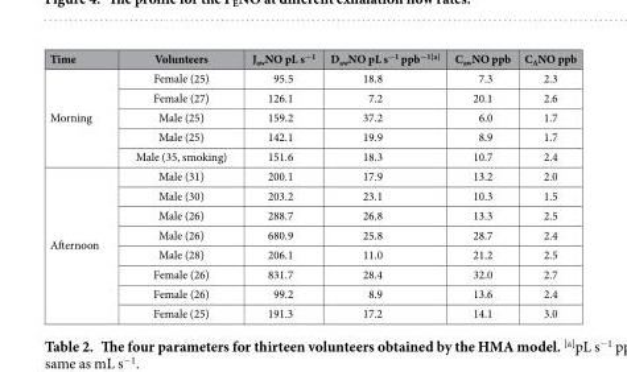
<table><thead><tr><td>Time</td><td>Volunteers</td><td>J<sub>aw</sub>NO pL s<sup>−1</sup></td><td>D<sub>aw</sub>NO pL s<sup>−1</sup> ppb<sup>−1[a]</sup></td><td>C<sub>aw</sub>NO ppb</td><td>C<sub>A</sub>NO ppb</td></tr></thead><tbody><tr><td rowspan="5">Morning</td><td>Female (25)</td><td>95.5</td><td>18.8</td><td>7.3</td><td>2.3</td></tr><tr><td>Female (27)</td><td>126.1</td><td>7.2</td><td>20.1</td><td>2.6</td></tr><tr><td>Male (25)</td><td>159.2</td><td>37.2</td><td>6.0</td><td>1.7</td></tr><tr><td>Male (25)</td><td>142.1</td><td>19.9</td><td>8.9</td><td>1.7</td></tr><tr><td>Male (35, smoking)</td><td>151.6</td><td>18.3</td><td>10.7</td><td>2.4</td></tr><tr><td rowspan="8">Afternoon</td><td>Male (31)</td><td>200.1</td><td>17.9</td><td>13.2</td><td>2.0</td></tr><tr><td>Male (30)</td><td>203.2</td><td>23.1</td><td>10.3</td><td>1.5</td></tr><tr><td>Male (26)</td><td>288.7</td><td>26.8</td><td>13.3</td><td>2.5</td></tr><tr><td>Male (26)</td><td>680.9</td><td>25.8</td><td>28.7</td><td>2.4</td></tr><tr><td>Male (28)</td><td>206.1</td><td>11.0</td><td>21.2</td><td>2.5</td></tr><tr><td>Female (26)</td><td>831.7</td><td>28.4</td><td>32.0</td><td>2.7</td></tr><tr><td>Female (26)</td><td>99.2</td><td>8.9</td><td>13.6</td><td>2.4</td></tr><tr><td>Female (25)</td><td>191.3</td><td>17.2</td><td>14.1</td><td>3.0</td></tr></tbody></table>